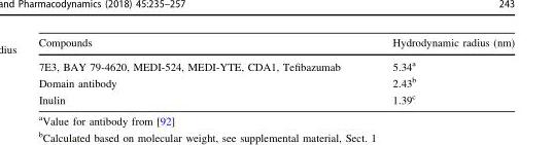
<table><thead><tr><td>Compounds</td><td>Hydrodynamic radius (nm)</td></tr></thead><tbody><tr><td>7E3, BAY 79-4620, MEDI-524, MEDI-YTE, CDA1, Tefibazumab</td><td>5.34<sup>a</sup></td></tr><tr><td>Domain antibody</td><td>2.43<sup>b</sup></td></tr><tr><td>Inulin</td><td>1.39<sup>c</sup></td></tr></tbody></table>